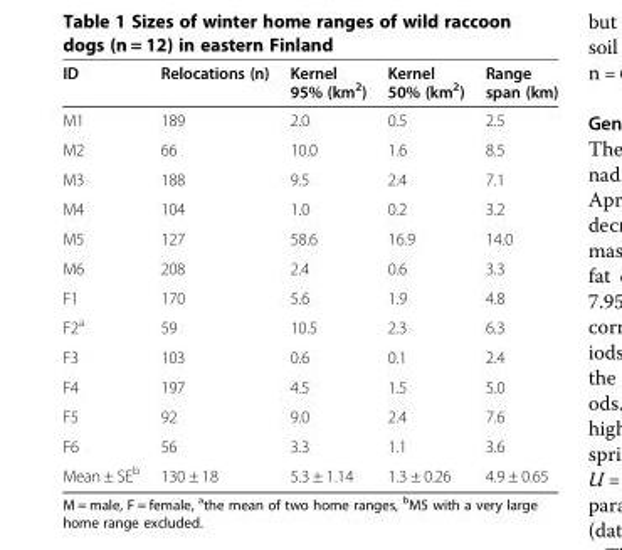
<table><thead><tr><td>ID</td><td>Relocations (n)</td><td>Kernel 95% (km<sup>2</sup>)</td><td>Kernel 50% (km<sup>2</sup>)</td><td>Range span (km)</td></tr></thead><tbody><tr><td>M1</td><td>189</td><td>2.0</td><td>0.5</td><td>2.5</td></tr><tr><td>M2</td><td>66</td><td>10.0</td><td>1.6</td><td>8.5</td></tr><tr><td>M3</td><td>188</td><td>9.5</td><td>2.4</td><td>7.1</td></tr><tr><td>M4</td><td>104</td><td>1.0</td><td>0.2</td><td>3.2</td></tr><tr><td>M5</td><td>127</td><td>58.6</td><td>16.9</td><td>14.0</td></tr><tr><td>M6</td><td>208</td><td>2.4</td><td>0.6</td><td>3.3</td></tr><tr><td>F1</td><td>170</td><td>5.6</td><td>1.9</td><td>4.8</td></tr><tr><td>F2<sup>a</sup></td><td>59</td><td>10.5</td><td>2.3</td><td>6.3</td></tr><tr><td>F3</td><td>103</td><td>0.6</td><td>0.1</td><td>2.4</td></tr><tr><td>F4</td><td>197</td><td>4.5</td><td>1.5</td><td>5.0</td></tr><tr><td>F5</td><td>92</td><td>9.0</td><td>2.4</td><td>7.6</td></tr><tr><td>F6</td><td>56</td><td>3.3</td><td>1.1</td><td>3.6</td></tr><tr><td>Mean ± SE<sup>b</sup></td><td>130 ± 18</td><td>5.3 ± 1.14</td><td>1.3 ± 0.26</td><td>4.9 ± 0.65</td></tr></tbody></table>